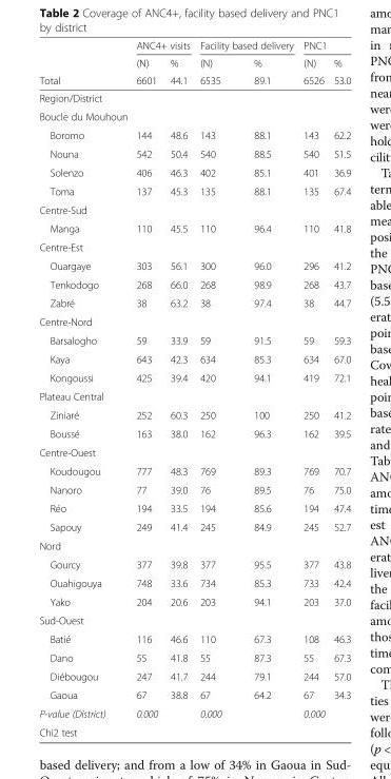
<table><thead><tr><td rowspan="3">Total</td><td colspan="2">ANC4+ visits</td><td colspan="2">Facility based delivery</td><td colspan="2">PNC1</td></tr><tr><td rowspan="2">(N) 6601</td><td rowspan="2">% 44.1</td><td rowspan="2">(N) 6535</td><td rowspan="2">% 89.1</td><td rowspan="2">(N) 6526</td><td rowspan="2">% 53.0</td></tr><tr></tr></thead><tbody><tr><td colspan="7">Region/District</td></tr><tr><td colspan="7">Boucle du Mouhoun</td></tr><tr><td>Boromo</td><td>144</td><td>48.6</td><td>143</td><td>88.1</td><td>143</td><td>62.2</td></tr><tr><td>Nouna</td><td>542</td><td>50.4</td><td>540</td><td>88.5</td><td>540</td><td>51.5</td></tr><tr><td>Solenzo</td><td>406</td><td>46.3</td><td>402</td><td>85.1</td><td>401</td><td>36.9</td></tr><tr><td>Toma</td><td>137</td><td>45.3</td><td>135</td><td>88.1</td><td>135</td><td>67.4</td></tr><tr><td colspan="7">Centre-Sud</td></tr><tr><td>Manga</td><td>110</td><td>45.5</td><td>110</td><td>96.4</td><td>110</td><td>41.8</td></tr><tr><td colspan="7">Centre-Est</td></tr><tr><td>Ouargaye</td><td>303</td><td>56.1</td><td>300</td><td>96.0</td><td>296</td><td>41.2</td></tr><tr><td>Tenkodogo</td><td>268</td><td>66.0</td><td>268</td><td>98.9</td><td>268</td><td>43.7</td></tr><tr><td>Zabré</td><td>38</td><td>63.2</td><td>38</td><td>97.4</td><td>38</td><td>44.7</td></tr><tr><td colspan="7">Centre-Nord</td></tr><tr><td>Barsalogho</td><td>59</td><td>33.9</td><td>59</td><td>91.5</td><td>59</td><td>59.3</td></tr><tr><td>Kaya</td><td>643</td><td>42.3</td><td>634</td><td>85.3</td><td>634</td><td>67.0</td></tr><tr><td>Kongoussi</td><td>425</td><td>39.4</td><td>420</td><td>94.1</td><td>419</td><td>72.1</td></tr><tr><td colspan="7">Plateau Central</td></tr><tr><td>Ziniaré</td><td>252</td><td>60.3</td><td>250</td><td>100</td><td>250</td><td>41.2</td></tr><tr><td>Boussé</td><td>163</td><td>38.0</td><td>162</td><td>96.3</td><td>162</td><td>39.5</td></tr><tr><td colspan="7">Centre-Ouest</td></tr><tr><td>Koudougou</td><td>777</td><td>48.3</td><td>769</td><td>89.3</td><td>769</td><td>70.7</td></tr><tr><td>Nanoro</td><td>77</td><td>39.0</td><td>76</td><td>89.5</td><td>76</td><td>75.0</td></tr><tr><td>Réo</td><td>194</td><td>33.5</td><td>194</td><td>85.6</td><td>194</td><td>47.4</td></tr><tr><td>Sapouy</td><td>249</td><td>41.4</td><td>245</td><td>84.9</td><td>245</td><td>52.7</td></tr><tr><td colspan="7">Nord</td></tr><tr><td>Gourcy</td><td>377</td><td>39.8</td><td>377</td><td>95.5</td><td>377</td><td>43.8</td></tr><tr><td>Ouahigouya</td><td>748</td><td>33.6</td><td>734</td><td>85.3</td><td>733</td><td>42.4</td></tr><tr><td>Yako</td><td>204</td><td>20.6</td><td>203</td><td>94.1</td><td>203</td><td>37.0</td></tr><tr><td colspan="7">Sud-Ouest</td></tr><tr><td>Batié</td><td>116</td><td>46.6</td><td>110</td><td>67.3</td><td>108</td><td>46.3</td></tr><tr><td>Dano</td><td>55</td><td>41.8</td><td>55</td><td>87.3</td><td>55</td><td>67.3</td></tr><tr><td>Diébougou</td><td>247</td><td>41.7</td><td>244</td><td>79.1</td><td>244</td><td>57.0</td></tr><tr><td>Gaoua</td><td>67</td><td>38.8</td><td>67</td><td>64.2</td><td>67</td><td>34.3</td></tr><tr><td>P-value (District)</td><td>0.000</td><td></td><td>0.000</td><td></td><td>0.000</td><td></td></tr><tr><td>Chi2 test</td><td></td><td></td><td></td><td></td><td></td><td></td></tr></tbody></table>